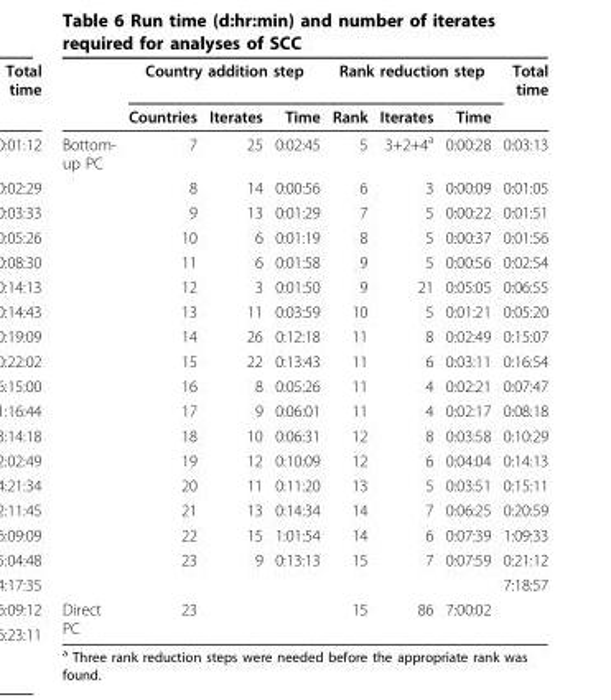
<table><thead><tr><td rowspan="2"></td><td colspan="3">Country addition step</td><td colspan="3">Rank reduction step</td><td rowspan="2">Total time</td></tr><tr><td>Countries</td><td>Iterates</td><td>Time</td><td>Rank</td><td>Iterates</td><td>Time</td></tr></thead><tbody><tr><td rowspan="18">Bottom- up PC</td><td>7</td><td>25</td><td>0:02:45</td><td>5</td><td>3+2+4<sup>a</sup></td><td>0:00:28</td><td>0:03:13</td></tr><tr><td>8</td><td>14</td><td>0:00:56</td><td>6</td><td>3</td><td>0:00:09</td><td>0:01:05</td></tr><tr><td>9</td><td>13</td><td>0:01:29</td><td>7</td><td>5</td><td>0:00:22</td><td>0:01:51</td></tr><tr><td>10</td><td>6</td><td>0:01:19</td><td>8</td><td>5</td><td>0:00:37</td><td>0:01:56</td></tr><tr><td>11</td><td>6</td><td>0:01:58</td><td>9</td><td>5</td><td>0:00:56</td><td>0:02:54</td></tr><tr><td>12</td><td>3</td><td>0:01:50</td><td>9</td><td>21</td><td>0:05:05</td><td>0:06:55</td></tr><tr><td>13</td><td>11</td><td>0:03:59</td><td>10</td><td>5</td><td>0:01:21</td><td>0:05:20</td></tr><tr><td>14</td><td>26</td><td>0:12:18</td><td>11</td><td>8</td><td>0:02:49</td><td>0:15:07</td></tr><tr><td>15</td><td>22</td><td>0:13:43</td><td>11</td><td>6</td><td>0:03:11</td><td>0:16:54</td></tr><tr><td>16</td><td>8</td><td>0:05:26</td><td>11</td><td>4</td><td>0:02:21</td><td>0:07:47</td></tr><tr><td>17</td><td>9</td><td>0:06:01</td><td>11</td><td>4</td><td>0:02:17</td><td>0:08:18</td></tr><tr><td>18</td><td>10</td><td>0:06:31</td><td>12</td><td>8</td><td>0:03:58</td><td>0:10:29</td></tr><tr><td>19</td><td>12</td><td>0:10:09</td><td>12</td><td>6</td><td>0:04:04</td><td>0:14:13</td></tr><tr><td>20</td><td>11</td><td>0:11:20</td><td>13</td><td>5</td><td>0:03:51</td><td>0:15:11</td></tr><tr><td>21</td><td>13</td><td>0:14:34</td><td>14</td><td>7</td><td>0:06:25</td><td>0:20:59</td></tr><tr><td>22</td><td>15</td><td>1:01:54</td><td>14</td><td>6</td><td>0:07:39</td><td>1:09:33</td></tr><tr><td>23</td><td>9</td><td>0:13:13</td><td>15</td><td>7</td><td>0:07:59</td><td>0:21:12</td></tr><tr><td></td><td></td><td></td><td></td><td></td><td></td><td>7:18:57</td></tr><tr><td>Direct PC</td><td>23</td><td></td><td></td><td>15</td><td>86</td><td>7:00:02</td><td></td></tr></tbody></table>